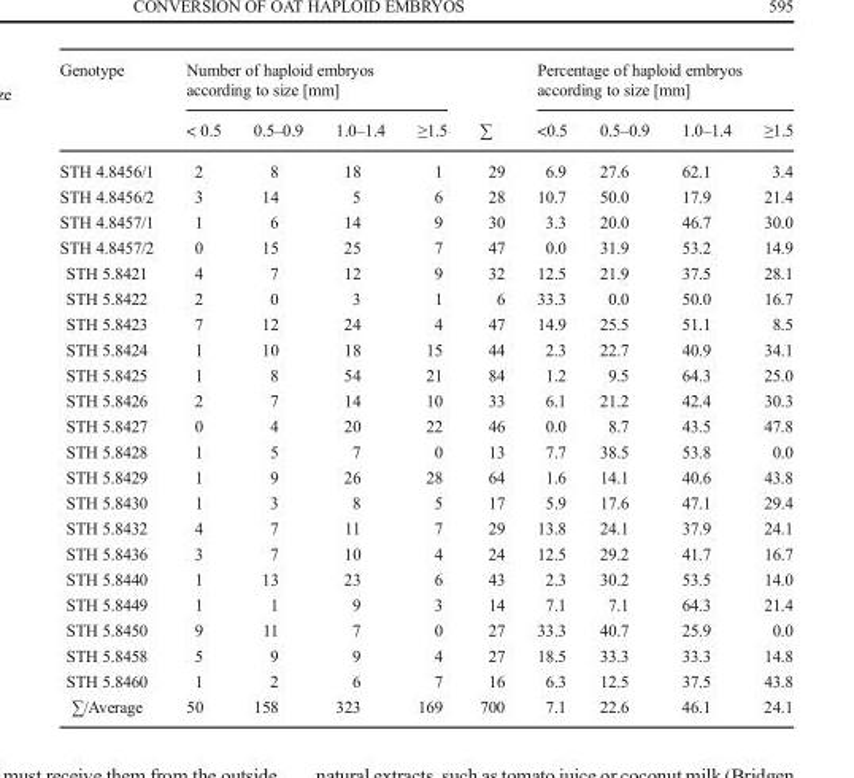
<table><thead><tr><td rowspan="2">Genotype</td><td colspan="4">Number of haploid embryos according to size [mm]</td><td rowspan="2">∑</td><td colspan="4">Percentage of haploid embryos according to size [mm]</td></tr><tr><td>&lt; 0.5</td><td>0.5–0.9</td><td>1.0–1.4</td><td>≥1.5</td><td>&lt;0.5</td><td>0.5–0.9</td><td>1.0–1.4</td><td>≥1.5</td></tr></thead><tbody><tr><td>STH 4.8456/1</td><td>2</td><td>8</td><td>18</td><td>1</td><td>29</td><td>6.9</td><td>27.6</td><td>62.1</td><td>3.4</td></tr><tr><td>STH 4.8456/2</td><td>3</td><td>14</td><td>5</td><td>6</td><td>28</td><td>10.7</td><td>50.0</td><td>17.9</td><td>21.4</td></tr><tr><td>STH 4.8457/1</td><td>1</td><td>6</td><td>14</td><td>9</td><td>30</td><td>3.3</td><td>20.0</td><td>46.7</td><td>30.0</td></tr><tr><td>STH 4.8457/2</td><td>0</td><td>15</td><td>25</td><td>7</td><td>47</td><td>0.0</td><td>31.9</td><td>53.2</td><td>14.9</td></tr><tr><td>STH 5.8421</td><td>4</td><td>7</td><td>12</td><td>9</td><td>32</td><td>12.5</td><td>21.9</td><td>37.5</td><td>28.1</td></tr><tr><td>STH 5.8422</td><td>2</td><td>0</td><td>3</td><td>1</td><td>6</td><td>33.3</td><td>0.0</td><td>50.0</td><td>16.7</td></tr><tr><td>STH 5.8423</td><td>7</td><td>12</td><td>24</td><td>4</td><td>47</td><td>14.9</td><td>25.5</td><td>51.1</td><td>8.5</td></tr><tr><td>STH 5.8424</td><td>1</td><td>10</td><td>18</td><td>15</td><td>44</td><td>2.3</td><td>22.7</td><td>40.9</td><td>34.1</td></tr><tr><td>STH 5.8425</td><td>1</td><td>8</td><td>54</td><td>21</td><td>84</td><td>1.2</td><td>9.5</td><td>64.3</td><td>25.0</td></tr><tr><td>STH 5.8426</td><td>2</td><td>7</td><td>14</td><td>10</td><td>33</td><td>6.1</td><td>21.2</td><td>42.4</td><td>30.3</td></tr><tr><td>STH 5.8427</td><td>0</td><td>4</td><td>20</td><td>22</td><td>46</td><td>0.0</td><td>8.7</td><td>43.5</td><td>47.8</td></tr><tr><td>STH 5.8428</td><td>1</td><td>5</td><td>7</td><td>0</td><td>13</td><td>7.7</td><td>38.5</td><td>53.8</td><td>0.0</td></tr><tr><td>STH 5.8429</td><td>1</td><td>9</td><td>26</td><td>28</td><td>64</td><td>1.6</td><td>14.1</td><td>40.6</td><td>43.8</td></tr><tr><td>STH 5.8430</td><td>1</td><td>3</td><td>8</td><td>5</td><td>17</td><td>5.9</td><td>17.6</td><td>47.1</td><td>29.4</td></tr><tr><td>STH 5.8432</td><td>4</td><td>7</td><td>11</td><td>7</td><td>29</td><td>13.8</td><td>24.1</td><td>37.9</td><td>24.1</td></tr><tr><td>STH 5.8436</td><td>3</td><td>7</td><td>10</td><td>4</td><td>24</td><td>12.5</td><td>29.2</td><td>41.7</td><td>16.7</td></tr><tr><td>STH 5.8440</td><td>1</td><td>13</td><td>23</td><td>6</td><td>43</td><td>2.3</td><td>30.2</td><td>53.5</td><td>14.0</td></tr><tr><td>STH 5.8449</td><td>1</td><td>1</td><td>9</td><td>3</td><td>14</td><td>7.1</td><td>7.1</td><td>64.3</td><td>21.4</td></tr><tr><td>STH 5.8450</td><td>9</td><td>11</td><td>7</td><td>0</td><td>27</td><td>33.3</td><td>40.7</td><td>25.9</td><td>0.0</td></tr><tr><td>STH 5.8458</td><td>5</td><td>9</td><td>9</td><td>4</td><td>27</td><td>18.5</td><td>33.3</td><td>33.3</td><td>14.8</td></tr><tr><td>STH 5.8460</td><td>1</td><td>2</td><td>6</td><td>7</td><td>16</td><td>6.3</td><td>12.5</td><td>37.5</td><td>43.8</td></tr><tr><td>∑/Average</td><td>50</td><td>158</td><td>323</td><td>169</td><td>700</td><td>7.1</td><td>22.6</td><td>46.1</td><td>24.1</td></tr></tbody></table>